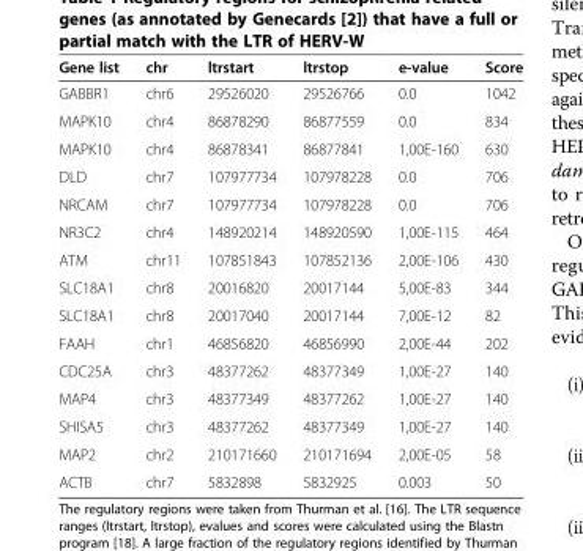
<table><thead><tr><td>Gene list</td><td>chr</td><td>ltrstart</td><td>ltrstop</td><td>e-value</td><td>Score</td></tr></thead><tbody><tr><td>GABBR1</td><td>chr6</td><td>29526020</td><td>29526766</td><td>0.0</td><td>1042</td></tr><tr><td>MAPK10</td><td>chr4</td><td>86878290</td><td>86877559</td><td>0.0</td><td>834</td></tr><tr><td>MAPK10</td><td>chr4</td><td>86878341</td><td>86877841</td><td>1,00E-160</td><td>630</td></tr><tr><td>DLD</td><td>chr7</td><td>107977734</td><td>107978228</td><td>0.0</td><td>706</td></tr><tr><td>NRCAM</td><td>chr7</td><td>107977734</td><td>107978228</td><td>0.0</td><td>706</td></tr><tr><td>NR3C2</td><td>chr4</td><td>148920214</td><td>148920590</td><td>1,00E-115</td><td>464</td></tr><tr><td>ATM</td><td>chr11</td><td>107851843</td><td>107852136</td><td>2,00E-106</td><td>430</td></tr><tr><td>SLC18A1</td><td>chr8</td><td>20016820</td><td>20017144</td><td>5,00E-83</td><td>344</td></tr><tr><td>SLC18A1</td><td>chr8</td><td>20017040</td><td>20017144</td><td>7,00E-12</td><td>82</td></tr><tr><td>FAAH</td><td>chr1</td><td>46856820</td><td>46856990</td><td>2,00E-44</td><td>202</td></tr><tr><td>CDC25A</td><td>chr3</td><td>48377262</td><td>48377349</td><td>1,00E-27</td><td>140</td></tr><tr><td>MAP4</td><td>chr3</td><td>48377349</td><td>48377262</td><td>1,00E-27</td><td>140</td></tr><tr><td>SHISA5</td><td>chr3</td><td>48377262</td><td>48377349</td><td>1,00E-27</td><td>140</td></tr><tr><td>MAP2</td><td>chr2</td><td>210171660</td><td>210171694</td><td>2,00E-05</td><td>58</td></tr><tr><td>ACTB</td><td>chr7</td><td>5832898</td><td>5832925</td><td>0.003</td><td>50</td></tr></tbody></table>